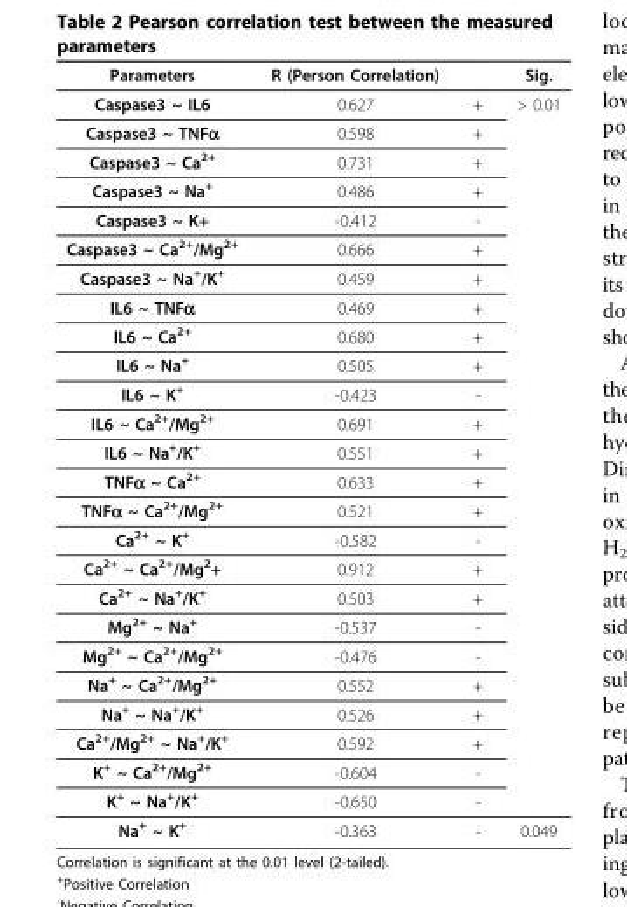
<table><thead><tr><td>Parameters</td><td>R (Person Correlation)</td><td></td><td>Sig.</td></tr></thead><tbody><tr><td>Caspase3 ~ IL6</td><td>0.627</td><td>+</td><td>&gt; 0.01</td></tr><tr><td>Caspase3 ~ TNFα</td><td>0.598</td><td>+</td><td></td></tr><tr><td>Caspase3 ~ Ca<sup>2+</sup></td><td>0.731</td><td>+</td><td></td></tr><tr><td>Caspase3 ~ Na<sup>+</sup></td><td>0.486</td><td>+</td><td></td></tr><tr><td>Caspase3 ~ K+</td><td>-0.412</td><td>-</td><td></td></tr><tr><td>Caspase3 ~ Ca<sup>2+</sup>/Mg<sup>2+</sup></td><td>0.666</td><td>+</td><td></td></tr><tr><td>Caspase3 ~ Na<sup>+</sup>/K<sup>+</sup></td><td>0.459</td><td>+</td><td></td></tr><tr><td>IL6 ~ TNFα</td><td>0.469</td><td>+</td><td></td></tr><tr><td>IL6 ~ Ca<sup>2+</sup></td><td>0.680</td><td>+</td><td></td></tr><tr><td>IL6 ~ Na<sup>+</sup></td><td>0.505</td><td>+</td><td></td></tr><tr><td>IL6 ~ K<sup>+</sup></td><td>-0.423</td><td>-</td><td></td></tr><tr><td>IL6 ~ Ca<sup>2+</sup>/Mg<sup>2+</sup></td><td>0.691</td><td>+</td><td></td></tr><tr><td>IL6 ~ Na<sup>+</sup>/K<sup>+</sup></td><td>0.551</td><td>+</td><td></td></tr><tr><td>TNFα ~ Ca<sup>2+</sup></td><td>0.633</td><td>+</td><td></td></tr><tr><td>TNFα ~ Ca<sup>2+</sup>/Mg<sup>2+</sup></td><td>0.521</td><td>+</td><td></td></tr><tr><td>Ca<sup>2+</sup> ~ K<sup>+</sup></td><td>-0.582</td><td>-</td><td></td></tr><tr><td>Ca<sup>2+</sup> ~ Ca<sup>2+</sup>/Mg<sup>2</sup>+</td><td>0.912</td><td>+</td><td></td></tr><tr><td>Ca<sup>2+</sup> ~ Na<sup>+</sup>/K<sup>+</sup></td><td>0.503</td><td>+</td><td></td></tr><tr><td>Mg<sup>2+</sup> ~ Na<sup>+</sup></td><td>-0.537</td><td>-</td><td></td></tr><tr><td>Mg<sup>2+</sup> ~ Ca<sup>2+</sup>/Mg<sup>2+</sup></td><td>-0.476</td><td>-</td><td></td></tr><tr><td>Na<sup>+</sup> ~ Ca<sup>2+</sup>/Mg<sup>2+</sup></td><td>0.552</td><td>+</td><td></td></tr><tr><td>Na<sup>+</sup> ~ Na<sup>+</sup>/K<sup>+</sup></td><td>0.526</td><td>+</td><td></td></tr><tr><td>Ca<sup>2+</sup>/Mg<sup>2+</sup> ~ Na<sup>+</sup>/K<sup>+</sup></td><td>0.592</td><td>+</td><td></td></tr><tr><td>K<sup>+</sup> ~ Ca<sup>2+</sup>/Mg<sup>2+</sup></td><td>-0.604</td><td>-</td><td></td></tr><tr><td>K<sup>+</sup> ~ Na<sup>+</sup>/K<sup>+</sup></td><td>-0.650</td><td>-</td><td></td></tr><tr><td>Na<sup>+</sup> ~ K<sup>+</sup></td><td>-0.363</td><td>-</td><td>0.049</td></tr></tbody></table>